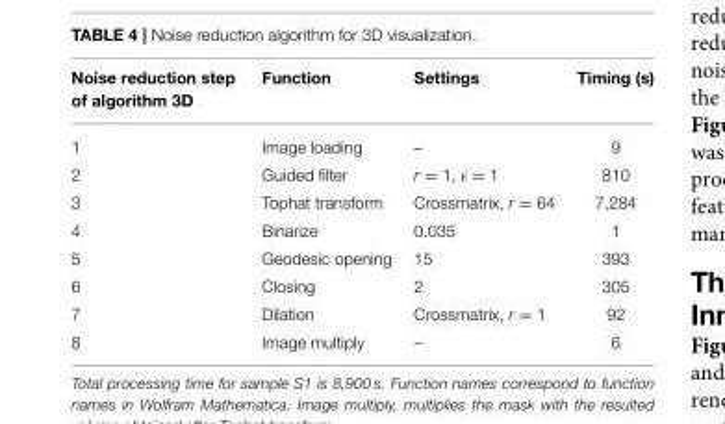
<table><thead><tr><td>Noise reduction step of algorithm 3D</td><td>Function</td><td>Settings</td><td>Timing (s)</td></tr></thead><tbody><tr><td>1</td><td>Image loading</td><td>–</td><td>9</td></tr><tr><td>2</td><td>Guided filter</td><td>r = 1, ε = 1</td><td>810</td></tr><tr><td>3</td><td>Tophat transform</td><td>Crossmatrix, r = 64</td><td>7,284</td></tr><tr><td>4</td><td>Binarize</td><td>0.035</td><td>1</td></tr><tr><td>5</td><td>Geodesic opening</td><td>15</td><td>393</td></tr><tr><td>6</td><td>Closing</td><td>2</td><td>305</td></tr><tr><td>7</td><td>Dilation</td><td>Crossmatrix, r = 1</td><td>92</td></tr><tr><td>8</td><td>Image multiply</td><td>–</td><td>6</td></tr></tbody></table>